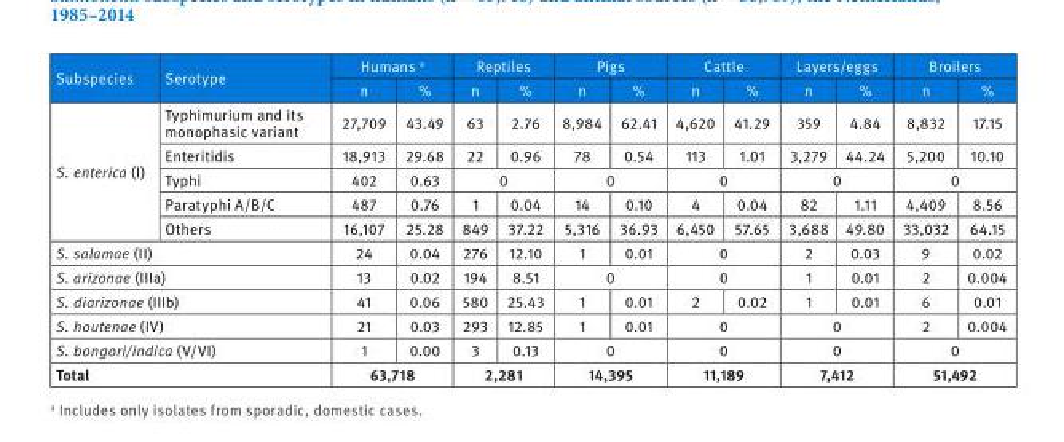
<table><thead><tr><td rowspan="2">Subspecies</td><td rowspan="2">Serotype</td><td colspan="2">Humans <sup>a</sup></td><td colspan="2">Reptiles</td><td colspan="2">Pigs</td><td colspan="2">Cattle</td><td colspan="2">Layers/eggs</td><td colspan="2">Broilers</td></tr><tr><td>n</td><td>%</td><td>n</td><td>%</td><td>n</td><td>%</td><td>n</td><td>%</td><td>n</td><td>%</td><td>n</td><td>%</td></tr></thead><tbody><tr><td rowspan="5">S. enterica (I)</td><td>Typhimurium and its monophasic variant</td><td>27,709</td><td>43.49</td><td>63</td><td>2.76</td><td>8,984</td><td>62.41</td><td>4,620</td><td>41.29</td><td>359</td><td>4.84</td><td>8,832</td><td>17.15</td></tr><tr><td>Enteritidis</td><td>18,913</td><td>29.68</td><td>22</td><td>0.96</td><td>78</td><td>0.54</td><td>113</td><td>1.01</td><td>3,279</td><td>44.24</td><td>5,200</td><td>10.10</td></tr><tr><td>Typhi</td><td>402</td><td>0.63</td><td colspan="2">0</td><td colspan="2">0</td><td colspan="2">0</td><td colspan="2">0</td><td colspan="2">0</td></tr><tr><td>Paratyphi A/B/C</td><td>487</td><td>0.76</td><td>1</td><td>0.04</td><td>14</td><td>0.10</td><td>4</td><td>0.04</td><td>82</td><td>1.11</td><td>4,409</td><td>8.56</td></tr><tr><td>Others</td><td>16,107</td><td>25.28</td><td>849</td><td>37.22</td><td>5,316</td><td>36.93</td><td>6,450</td><td>57.65</td><td>3,688</td><td>49.80</td><td>33,032</td><td>64.15</td></tr><tr><td colspan="2">S. salamae (II)</td><td>24</td><td>0.04</td><td>276</td><td>12.10</td><td>1</td><td>0.01</td><td colspan="2">0</td><td>2</td><td>0.03</td><td>9</td><td>0.02</td></tr><tr><td colspan="2">S. arizonae (IIIa)</td><td>13</td><td>0.02</td><td>194</td><td>8.51</td><td colspan="2">0</td><td colspan="2">0</td><td>1</td><td>0.01</td><td>2</td><td>0.004</td></tr><tr><td colspan="2">S. diarizonae (IIIb)</td><td>41</td><td>0.06</td><td>580</td><td>25.43</td><td>1</td><td>0.01</td><td>2</td><td>0.02</td><td>1</td><td>0.01</td><td>6</td><td>0.01</td></tr><tr><td colspan="2">S. houtenae (IV)</td><td>21</td><td>0.03</td><td>293</td><td>12.85</td><td>1</td><td>0.01</td><td colspan="2">0</td><td colspan="2">0</td><td>2</td><td>0.004</td></tr><tr><td colspan="2">S. bongori/indica (V/VI)</td><td>1</td><td>0.00</td><td>3</td><td>0.13</td><td colspan="2">0</td><td colspan="2">0</td><td colspan="2">0</td><td colspan="2">0</td></tr><tr><td colspan="2">Total</td><td colspan="2">63,718</td><td colspan="2">2,281</td><td colspan="2">14,395</td><td colspan="2">11,189</td><td colspan="2">7,412</td><td colspan="2">51,492</td></tr></tbody></table>